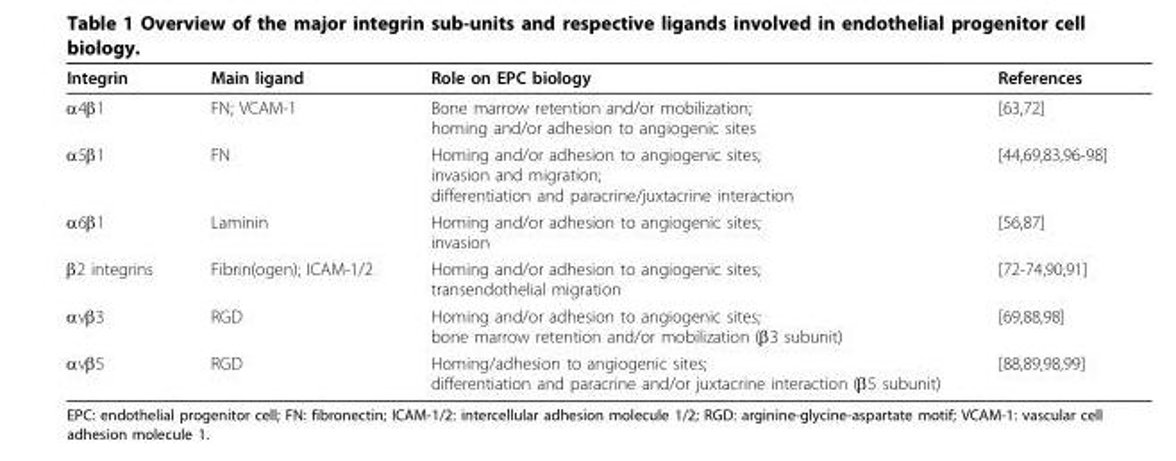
<table><thead><tr><td>Integrin</td><td>Main ligand</td><td>Role on EPC biology</td><td>References</td></tr></thead><tbody><tr><td>α4β1</td><td>FN; VCAM-1</td><td>Bone marrow retention and/or mobilization; homing and/or adhesion to angiogenic sites</td><td>[63,72]</td></tr><tr><td>α5β1</td><td>FN</td><td>Homing and/or adhesion to angiogenic sites; invasion and migration; differentiation and paracrine/juxtacrine interaction</td><td>[44,69,83,96-98]</td></tr><tr><td>α6β1</td><td>Laminin</td><td>Homing and/or adhesion to angiogenic sites; invasion</td><td>[56,87]</td></tr><tr><td>β2 integrins</td><td>Fibrin(ogen); ICAM-1/2</td><td>Homing and/or adhesion to angiogenic sites; transendothelial migration</td><td>[72-74,90,91]</td></tr><tr><td>αvβ3</td><td>RGD</td><td>Homing and/or adhesion to angiogenic sites; bone marrow retention and/or mobilization (β3 subunit)</td><td>[69,88,98]</td></tr><tr><td>αvβ5</td><td>RGD</td><td>Homing/adhesion to angiogenic sites; differentiation and paracrine and/or juxtacrine interaction (β5 subunit)</td><td>[88,89,98,99]</td></tr></tbody></table>